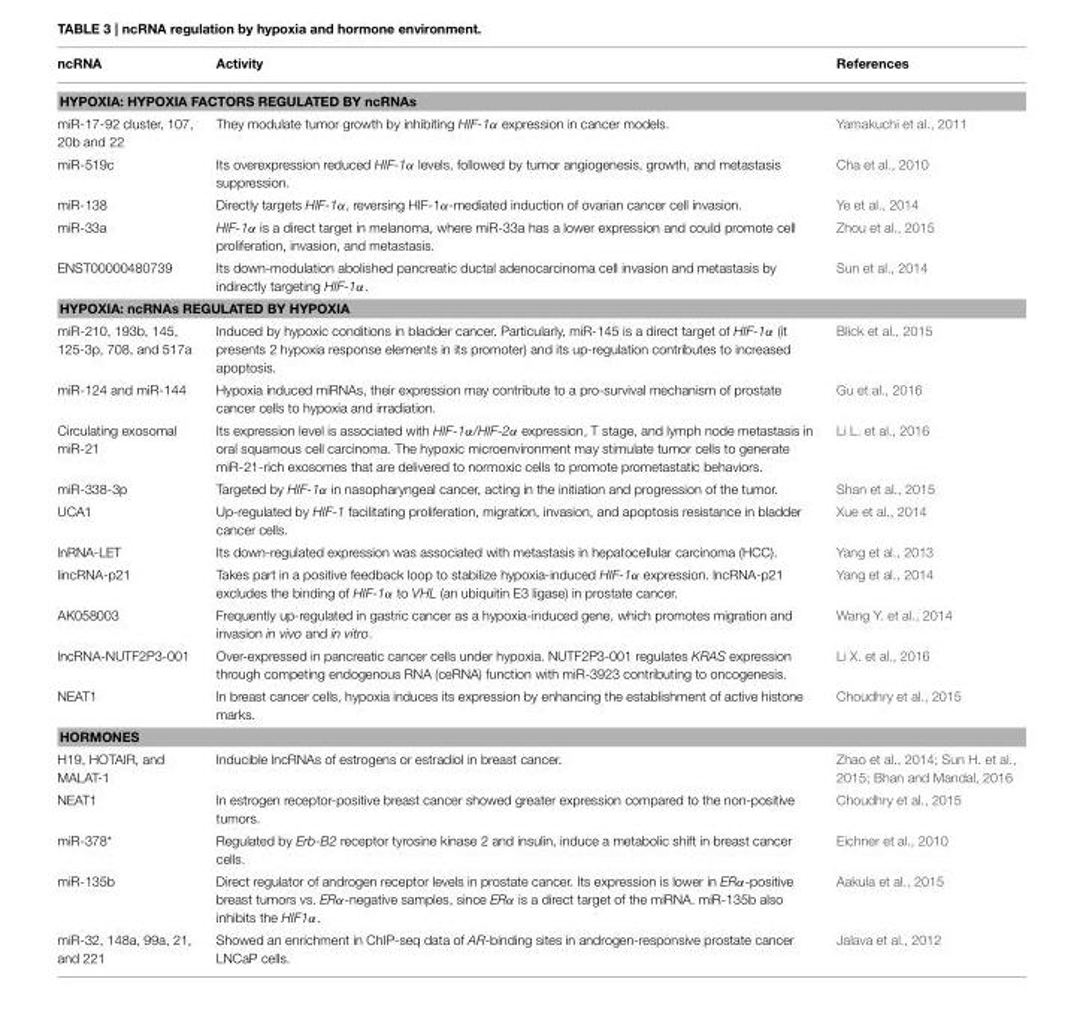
<table><thead><tr><td>ncRNA</td><td>Activity</td><td>References</td></tr></thead><tbody><tr><td colspan="3">HYPOXIA: HYPOXIA FACTORS REGULATED BY ncRNAs</td></tr><tr><td>miR-17-92 cluster, 107, 20b and 22</td><td>They modulate tumor growth by inhibiting HIF-1α expression in cancer models.</td><td>Yamakuchi et al., 2011</td></tr><tr><td>miR-519c</td><td>Its overexpression reduced HIF-1α levels, followed by tumor angiogenesis, growth, and metastasis suppression.</td><td>Cha et al., 2010</td></tr><tr><td>miR-138</td><td>Directly targets HIF-1α, reversing HIF-1α-mediated induction of ovarian cancer cell invasion.</td><td>Ye et al., 2014</td></tr><tr><td>miR-33a</td><td>HIF-1α is a direct target in melanoma, where miR-33a has a lower expression and could promote cell proliferation, invasion, and metastasis.</td><td>Zhou et al., 2015</td></tr><tr><td>ENST00000480739</td><td>Its down-modulation abolished pancreatic ductal adenocarcinoma cell invasion and metastasis by indirectly targeting HIF-1α.</td><td>Sun et al., 2014</td></tr><tr><td colspan="3">HYPOXIA: ncRNAs REGULATED BY HYPOXIA</td></tr><tr><td>miR-210, 193b, 145, 125-3p, 708, and 517a</td><td>Induced by hypoxic conditions in bladder cancer. Particularly, miR-145 is a direct target of HIF-1α (it presents 2 hypoxia response elements in its promoter) and its up-regulation contributes to increased apoptosis.</td><td>Blick et al., 2015</td></tr><tr><td>miR-124 and miR-144</td><td>Hypoxia induced miRNAs, their expression may contribute to a pro-survival mechanism of prostate cancer cells to hypoxia and irradiation.</td><td>Gu et al., 2016</td></tr><tr><td>Circulating exosomal miR-21</td><td>Its expression level is associated with HIF-1α/HIF-2α expression, T stage, and lymph node metastasis in oral squamous cell carcinoma. The hypoxic microenvironment may stimulate tumor cells to generate miR-21-rich exosomes that are delivered to normoxic cells to promote prometastatic behaviors.</td><td>Li L. et al., 2016</td></tr><tr><td>miR-338-3p</td><td>Targeted by HIF-1α in nasopharyngeal cancer, acting in the initiation and progression of the tumor.</td><td>Shan et al., 2015</td></tr><tr><td>UCA1</td><td>Up-regulated by HIF-1 facilitating proliferation, migration, invasion, and apoptosis resistance in bladder cancer cells.</td><td>Xue et al., 2014</td></tr><tr><td>lnRNA-LET</td><td>Its down-regulated expression was associated with metastasis in hepatocellular carcinoma (HCC).</td><td>Yang et al., 2013</td></tr><tr><td>lincRNA-p21</td><td>Takes part in a positive feedback loop to stabilize hypoxia-induced HIF-1α expression. lncRNA-p21 excludes the binding of HIF-1α to VHL (an ubiquitin E3 ligase) in prostate cancer.</td><td>Yang et al., 2014</td></tr><tr><td>AK058003</td><td>Frequently up-regulated in gastric cancer as a hypoxia-induced gene, which promotes migration and invasion in vivo and in vitro.</td><td>Wang Y. et al., 2014</td></tr><tr><td>lncRNA-NUTF2P3-001</td><td>Over-expressed in pancreatic cancer cells under hypoxia. NUTF2P3-001 regulates KRAS expression through competing endogenous RNA (ceRNA) function with miR-3923 contributing to oncogenesis.</td><td>Li X. et al., 2016</td></tr><tr><td>NEAT1</td><td>In breast cancer cells, hypoxia induces its expression by enhancing the establishment of active histone marks.</td><td>Choudhry et al., 2015</td></tr><tr><td colspan="3">HORMONES</td></tr><tr><td>H19, HOTAIR, and MALAT-1</td><td>Inducible lncRNAs of estrogens or estradiol in breast cancer.</td><td>Zhao et al., 2014; Sun H. et al., 2015; Bhan and Mandal, 2016</td></tr><tr><td>NEAT1</td><td>In estrogen receptor-positive breast cancer showed greater expression compared to the non-positive tumors.</td><td>Choudhry et al., 2015</td></tr><tr><td>miR-378*</td><td>Regulated by Erb-B2 receptor tyrosine kinase 2 and insulin, induce a metabolic shift in breast cancer cells.</td><td>Eichner et al., 2010</td></tr><tr><td>miR-135b</td><td>Direct regulator of androgen receptor levels in prostate cancer. Its expression is lower in ERα-positive breast tumors vs. ERα-negative samples, since ERα is a direct target of the miRNA. miR-135b also inhibits the HIF1α.</td><td>Aakula et al., 2015</td></tr><tr><td>miR-32, 148a, 99a, 21, and 221</td><td>Showed an enrichment in ChIP-seq data of AR-binding sites in androgen-responsive prostate cancer LNCaP cells.</td><td>Jalava et al., 2012</td></tr></tbody></table>